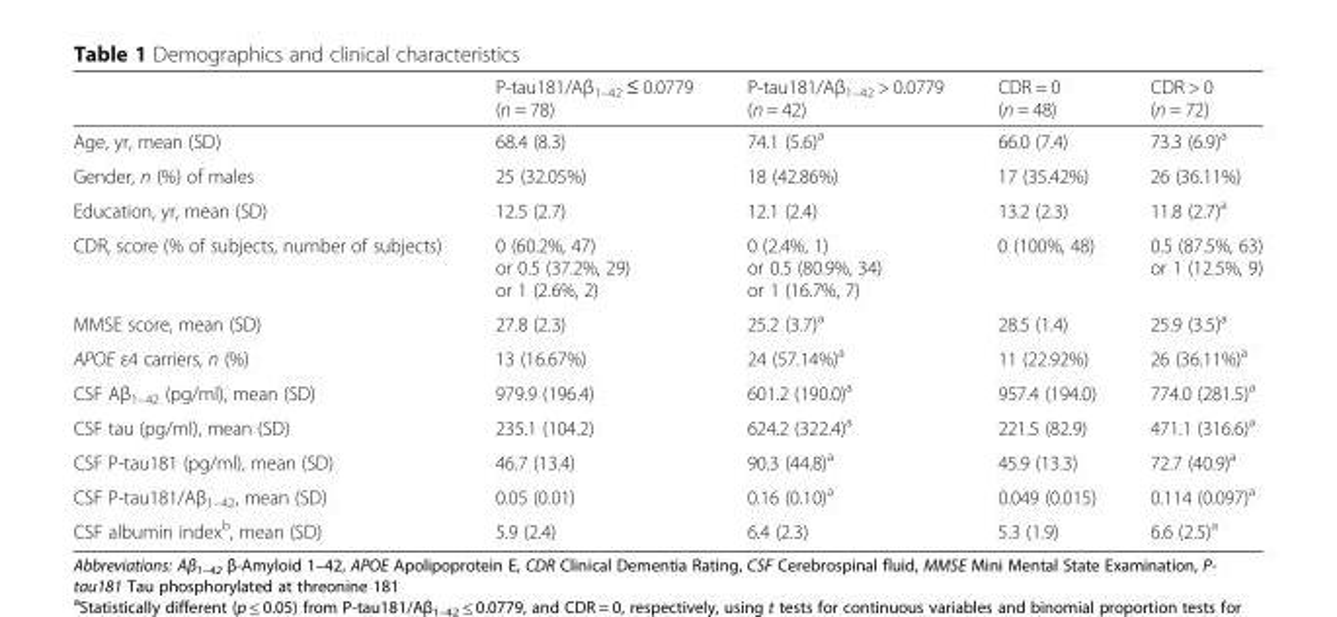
<table><thead><tr><td></td><td>P-tau181/Aβ<sub>1–42</sub> ≤ 0.0779 (n = 78)</td><td>P-tau181/Aβ<sub>1–42</sub> &gt; 0.0779 (n = 42)</td><td>CDR = 0 (n = 48)</td><td>CDR &gt; 0 (n = 72)</td></tr></thead><tbody><tr><td>Age, yr, mean (SD)</td><td>68.4 (8.3)</td><td>74.1 (5.6)<sup>a</sup></td><td>66.0 (7.4)</td><td>73.3 (6.9)<sup>a</sup></td></tr><tr><td>Gender, n (%) of males</td><td>25 (32.05%)</td><td>18 (42.86%)</td><td>17 (35.42%)</td><td>26 (36.11%)</td></tr><tr><td>Education, yr, mean (SD)</td><td>12.5 (2.7)</td><td>12.1 (2.4)</td><td>13.2 (2.3)</td><td>11.8 (2.7)<sup>a</sup></td></tr><tr><td>CDR, score (% of subjects, number of subjects)</td><td>0 (60.2%, 47) or 0.5 (37.2%, 29) or 1 (2.6%, 2)</td><td>0 (2.4%, 1) or 0.5 (80.9%, 34) or 1 (16.7%, 7)</td><td>0 (100%, 48)</td><td>0.5 (87.5%, 63) or 1 (12.5%, 9)</td></tr><tr><td>MMSE score, mean (SD)</td><td>27.8 (2.3)</td><td>25.2 (3.7)<sup>a</sup></td><td>28.5 (1.4)</td><td>25.9 (3.5)<sup>a</sup></td></tr><tr><td>APOE ε4 carriers, n (%)</td><td>13 (16.67%)</td><td>24 (57.14%)<sup>a</sup></td><td>11 (22.92%)</td><td>26 (36.11%)<sup>a</sup></td></tr><tr><td>CSF Aβ<sub>1–42</sub> (pg/ml), mean (SD)</td><td>979.9 (196.4)</td><td>601.2 (190.0)<sup>a</sup></td><td>957.4 (194.0)</td><td>774.0 (281.5)<sup>a</sup></td></tr><tr><td>CSF tau (pg/ml), mean (SD)</td><td>235.1 (104.2)</td><td>624.2 (322.4)<sup>a</sup></td><td>221.5 (82.9)</td><td>471.1 (316.6)<sup>a</sup></td></tr><tr><td>CSF P-tau181 (pg/ml), mean (SD)</td><td>46.7 (13.4)</td><td>90.3 (44.8)<sup>a</sup></td><td>45.9 (13.3)</td><td>72.7 (40.9)<sup>a</sup></td></tr><tr><td>CSF P-tau181/Aβ<sub>1–42</sub>, mean (SD)</td><td>0.05 (0.01)</td><td>0.16 (0.10)<sup>a</sup></td><td>0.049 (0.015)</td><td>0.114 (0.097)<sup>a</sup></td></tr><tr><td>CSF albumin index<sup>b</sup>, mean (SD)</td><td>5.9 (2.4)</td><td>6.4 (2.3)</td><td>5.3 (1.9)</td><td>6.6 (2.5)<sup>a</sup></td></tr></tbody></table>